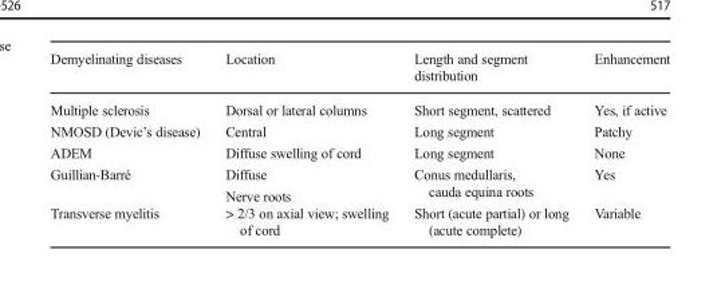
<table><thead><tr><td>Demyelinating diseases</td><td>Location</td><td>Length and segment distribution</td><td>Enhancement</td></tr></thead><tbody><tr><td>Multiple sclerosis</td><td>Dorsal or lateral columns</td><td>Short segment, scattered</td><td>Yes, if active</td></tr><tr><td>NMOSD (Devic’s disease)</td><td>Central</td><td>Long segment</td><td>Patchy</td></tr><tr><td>ADEM</td><td>Diffuse swelling of cord</td><td>Long segment</td><td>None</td></tr><tr><td>Guillian-Barré</td><td>Diffuse Nerve roots</td><td>Conus medullaris, cauda equina roots</td><td>Yes</td></tr><tr><td>Transverse myelitis</td><td>&gt; 2/3 on axial view; swelling of cord</td><td>Short (acute partial) or long (acute complete)</td><td>Variable</td></tr></tbody></table>